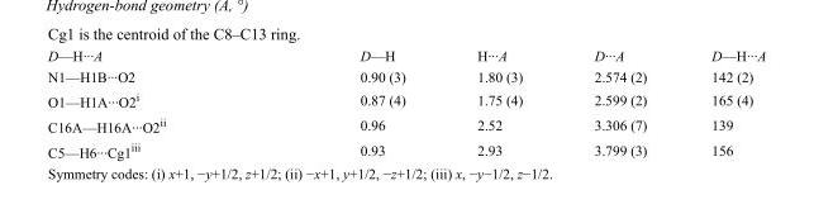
<table><tbody><tr><td>D—H···A</td><td>D—H</td><td>H···A</td><td>D···A</td><td>D—H···A</td></tr><tr><td>N1—H1B···O2</td><td>0.90 (3)</td><td>1.80 (3)</td><td>2.574 (2)</td><td>142 (2)</td></tr><tr><td>O1—H1A···O2<sup>i</sup></td><td>0.87 (4)</td><td>1.75 (4)</td><td>2.599 (2)</td><td>165 (4)</td></tr><tr><td>C16A—H16A···O2<sup>ii</sup></td><td>0.96</td><td>2.52</td><td>3.306 (7)</td><td>139</td></tr><tr><td>C5—H6···Cg1<sup>iii</sup></td><td>0.93</td><td>2.93</td><td>3.799 (3)</td><td>156</td></tr></tbody></table>